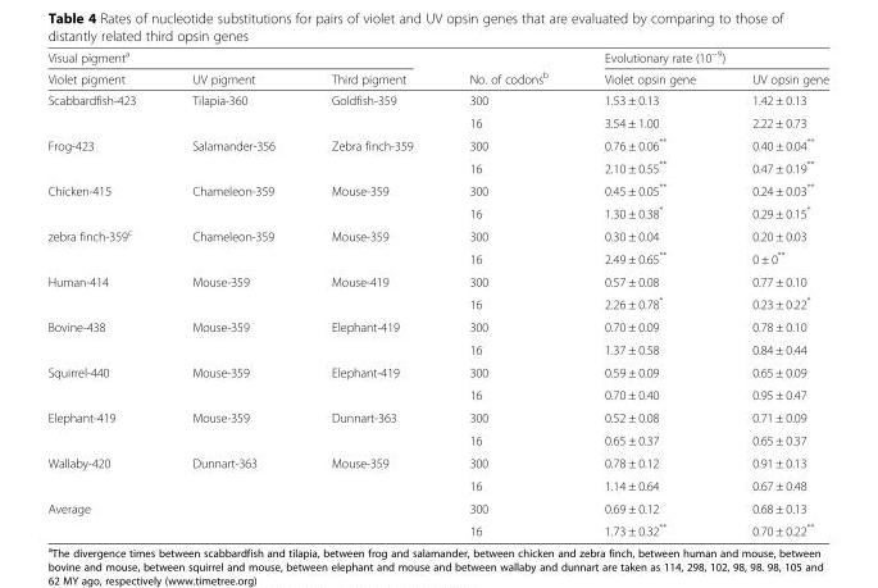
<table><thead><tr><td colspan="3">Visual pigment<sup>a</sup></td><td rowspan="2">No. of codons<sup>b</sup></td><td colspan="2">Evolutionary rate (10<sup>−9</sup>)</td></tr><tr><td>Violet pigment</td><td>UV pigment</td><td>Third pigment</td><td>Violet opsin gene</td><td>UV opsin gene</td></tr></thead><tbody><tr><td rowspan="2">Scabbardfish-423</td><td>Tilapia-360</td><td>Goldfish-359</td><td>300</td><td>1.53 ± 0.13</td><td>1.42 ± 0.13</td></tr><tr><td></td><td></td><td>16</td><td>3.54 ± 1.00</td><td>2.22 ± 0.73</td></tr><tr><td rowspan="2">Frog-423</td><td>Salamander-356</td><td>Zebra finch-359</td><td>300</td><td>0.76 ± 0.06**</td><td>0.40 ± 0.04**</td></tr><tr><td></td><td></td><td>16</td><td>2.10 ± 0.55**</td><td>0.47 ± 0.19**</td></tr><tr><td rowspan="2">Chicken-415</td><td>Chameleon-359</td><td>Mouse-359</td><td>300</td><td>0.45 ± 0.05**</td><td>0.24 ± 0.03**</td></tr><tr><td></td><td></td><td>16</td><td>1.30 ± 0.38*</td><td>0.29 ± 0.15*</td></tr><tr><td rowspan="2">zebra finch-359<sup>c</sup></td><td>Chameleon-359</td><td>Mouse-359</td><td>300</td><td>0.30 ± 0.04</td><td>0.20 ± 0.03</td></tr><tr><td></td><td></td><td>16</td><td>2.49 ± 0.65**</td><td>0 ± 0**</td></tr><tr><td rowspan="2">Human-414</td><td>Mouse-359</td><td>Mouse-419</td><td>300</td><td>0.57 ± 0.08</td><td>0.77 ± 0.10</td></tr><tr><td></td><td></td><td>16</td><td>2.26 ± 0.78*</td><td>0.23 ± 0.22*</td></tr><tr><td rowspan="2">Bovine-438</td><td>Mouse-359</td><td>Elephant-419</td><td>300</td><td>0.70 ± 0.09</td><td>0.78 ± 0.10</td></tr><tr><td></td><td></td><td>16</td><td>1.37 ± 0.58</td><td>0.84 ± 0.44</td></tr><tr><td rowspan="2">Squirrel-440</td><td>Mouse-359</td><td>Elephant-419</td><td>300</td><td>0.59 ± 0.09</td><td>0.65 ± 0.09</td></tr><tr><td></td><td></td><td>16</td><td>0.70 ± 0.40</td><td>0.95 ± 0.47</td></tr><tr><td rowspan="2">Elephant-419</td><td>Mouse-359</td><td>Dunnart-363</td><td>300</td><td>0.52 ± 0.08</td><td>0.71 ± 0.09</td></tr><tr><td></td><td></td><td>16</td><td>0.65 ± 0.37</td><td>0.65 ± 0.37</td></tr><tr><td rowspan="2">Wallaby-420</td><td>Dunnart-363</td><td>Mouse-359</td><td>300</td><td>0.78 ± 0.12</td><td>0.91 ± 0.13</td></tr><tr><td></td><td></td><td>16</td><td>1.14 ± 0.64</td><td>0.67 ± 0.48</td></tr><tr><td rowspan="2" colspan="3">Average</td><td>300</td><td>0.69 ± 0.12</td><td>0.68 ± 0.13</td></tr><tr><td>16</td><td>1.73 ± 0.32**</td><td>0.70 ± 0.22**</td></tr></tbody></table>